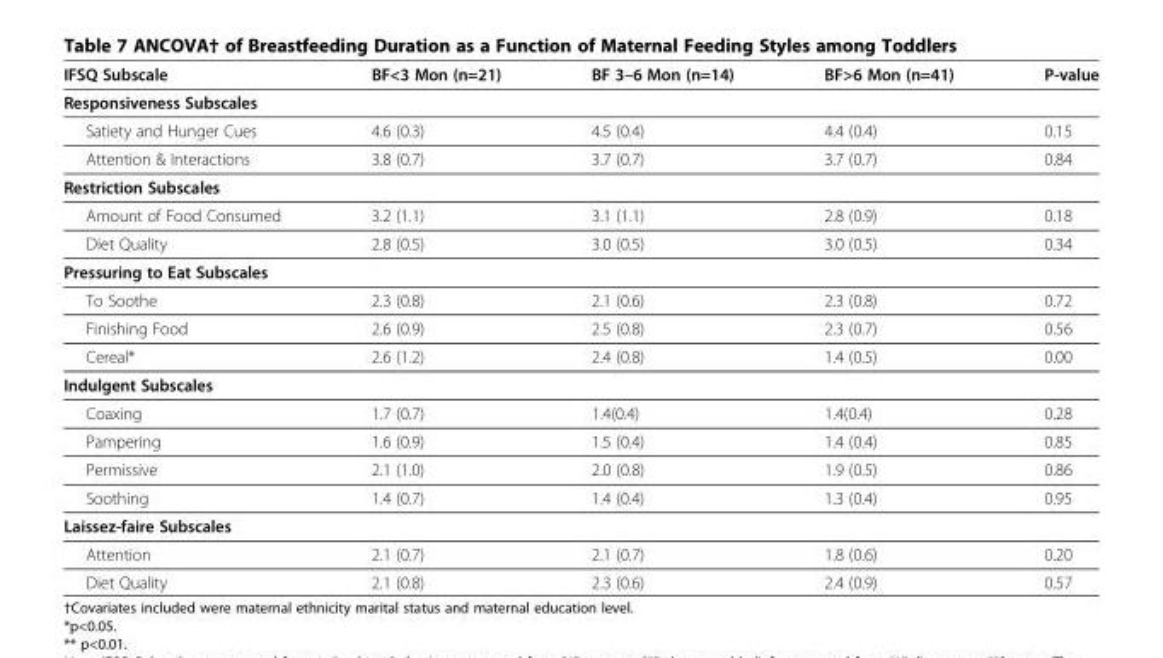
<table><thead><tr><td>IFSQ Subscale</td><td>BF&lt;3 Mon (n=21)</td><td>BF 3–6 Mon (n=14)</td><td>BF&gt;6 Mon (n=41)</td><td>P-value</td></tr></thead><tbody><tr><td colspan="5">Responsiveness Subscales</td></tr><tr><td>Satiety and Hunger Cues</td><td>4.6 (0.3)</td><td>4.5 (0.4)</td><td>4.4 (0.4)</td><td>0.15</td></tr><tr><td>Attention &amp; Interactions</td><td>3.8 (0.7)</td><td>3.7 (0.7)</td><td>3.7 (0.7)</td><td>0.84</td></tr><tr><td colspan="5">Restriction Subscales</td></tr><tr><td>Amount of Food Consumed</td><td>3.2 (1.1)</td><td>3.1 (1.1)</td><td>2.8 (0.9)</td><td>0.18</td></tr><tr><td>Diet Quality</td><td>2.8 (0.5)</td><td>3.0 (0.5)</td><td>3.0 (0.5)</td><td>0.34</td></tr><tr><td colspan="5">Pressuring to Eat Subscales</td></tr><tr><td>To Soothe</td><td>2.3 (0.8)</td><td>2.1 (0.6)</td><td>2.3 (0.8)</td><td>0.72</td></tr><tr><td>Finishing Food</td><td>2.6 (0.9)</td><td>2.5 (0.8)</td><td>2.3 (0.7)</td><td>0.56</td></tr><tr><td>Cereal*</td><td>2.6 (1.2)</td><td>2.4 (0.8)</td><td>1.4 (0.5)</td><td>0.00</td></tr><tr><td colspan="5">Indulgent Subscales</td></tr><tr><td>Coaxing</td><td>1.7 (0.7)</td><td>1.4(0.4)</td><td>1.4(0.4)</td><td>0.28</td></tr><tr><td>Pampering</td><td>1.6 (0.9)</td><td>1.5 (0.4)</td><td>1.4 (0.4)</td><td>0.85</td></tr><tr><td>Permissive</td><td>2.1 (1.0)</td><td>2.0 (0.8)</td><td>1.9 (0.5)</td><td>0.86</td></tr><tr><td>Soothing</td><td>1.4 (0.7)</td><td>1.4 (0.4)</td><td>1.3 (0.4)</td><td>0.95</td></tr><tr><td colspan="5">Laissez-faire Subscales</td></tr><tr><td>Attention</td><td>2.1 (0.7)</td><td>2.1 (0.7)</td><td>1.8 (0.6)</td><td>0.20</td></tr><tr><td>Diet Quality</td><td>2.1 (0.8)</td><td>2.3 (0.6)</td><td>2.4 (0.9)</td><td>0.57</td></tr></tbody></table>